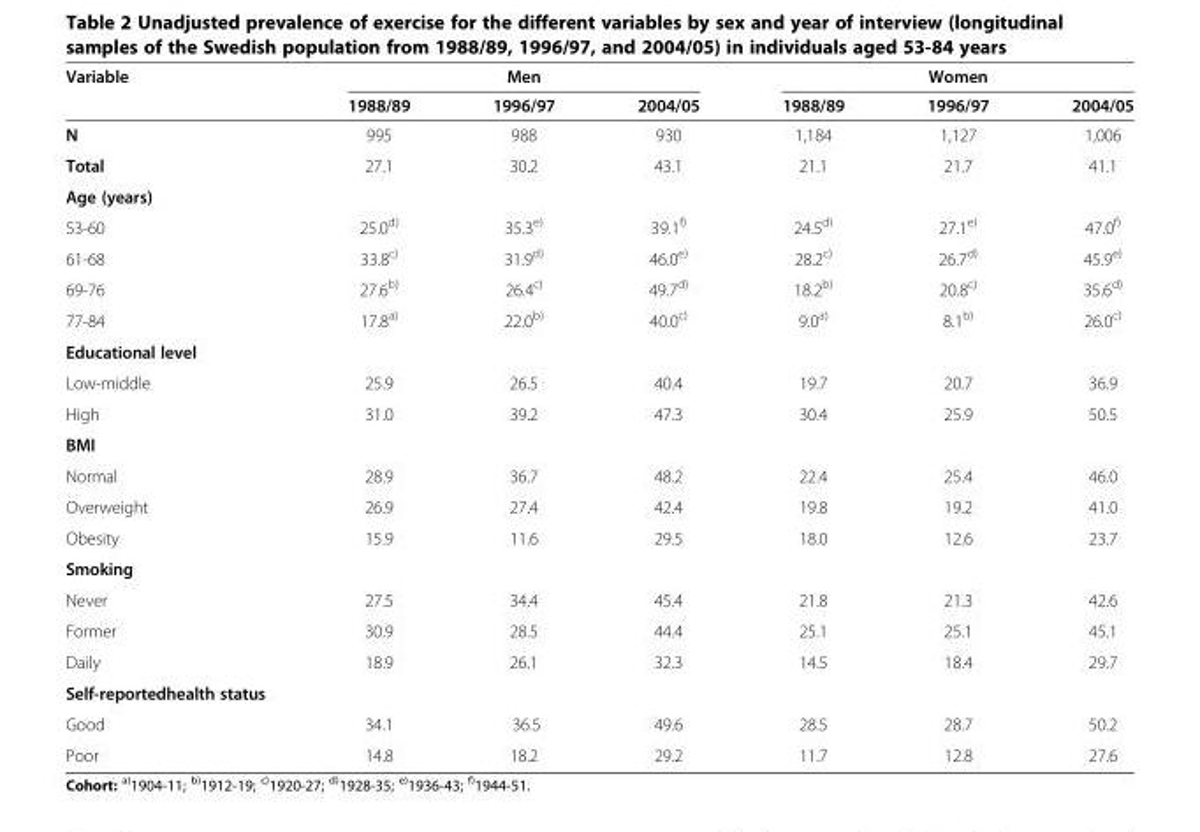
<table><thead><tr><td rowspan="2">Variable</td><td colspan="3">Men</td><td colspan="3">Women</td></tr><tr><td>1988/89</td><td>1996/97</td><td>2004/05</td><td>1988/89</td><td>1996/97</td><td>2004/05</td></tr></thead><tbody><tr><td>N</td><td>995</td><td>988</td><td>930</td><td>1,184</td><td>1,127</td><td>1,006</td></tr><tr><td>Total</td><td>27.1</td><td>30.2</td><td>43.1</td><td>21.1</td><td>21.7</td><td>41.1</td></tr><tr><td colspan="7">Age (years)</td></tr><tr><td>53-60</td><td>25.0<sup>d)</sup></td><td>35.3<sup>e)</sup></td><td>39.1<sup>f)</sup></td><td>24.5<sup>d)</sup></td><td>27.1<sup>e)</sup></td><td>47.0<sup>f)</sup></td></tr><tr><td>61-68</td><td>33.8<sup>c)</sup></td><td>31.9<sup>d)</sup></td><td>46.0<sup>e)</sup></td><td>28.2<sup>c)</sup></td><td>26.7<sup>d)</sup></td><td>45.9<sup>e)</sup></td></tr><tr><td>69-76</td><td>27.6<sup>b)</sup></td><td>26.4<sup>c)</sup></td><td>49.7<sup>d)</sup></td><td>18.2<sup>b)</sup></td><td>20.8<sup>c)</sup></td><td>35.6<sup>d)</sup></td></tr><tr><td>77-84</td><td>17.8<sup>a)</sup></td><td>22.0<sup>b)</sup></td><td>40.0<sup>c)</sup></td><td>9.0<sup>a)</sup></td><td>8.1<sup>b)</sup></td><td>26.0<sup>c)</sup></td></tr><tr><td colspan="7">Educational level</td></tr><tr><td>Low-middle</td><td>25.9</td><td>26.5</td><td>40.4</td><td>19.7</td><td>20.7</td><td>36.9</td></tr><tr><td>High</td><td>31.0</td><td>39.2</td><td>47.3</td><td>30.4</td><td>25.9</td><td>50.5</td></tr><tr><td colspan="7">BMI</td></tr><tr><td>Normal</td><td>28.9</td><td>36.7</td><td>48.2</td><td>22.4</td><td>25.4</td><td>46.0</td></tr><tr><td>Overweight</td><td>26.9</td><td>27.4</td><td>42.4</td><td>19.8</td><td>19.2</td><td>41.0</td></tr><tr><td>Obesity</td><td>15.9</td><td>11.6</td><td>29.5</td><td>18.0</td><td>12.6</td><td>23.7</td></tr><tr><td colspan="7">Smoking</td></tr><tr><td>Never</td><td>27.5</td><td>34.4</td><td>45.4</td><td>21.8</td><td>21.3</td><td>42.6</td></tr><tr><td>Former</td><td>30.9</td><td>28.5</td><td>44.4</td><td>25.1</td><td>25.1</td><td>45.1</td></tr><tr><td>Daily</td><td>18.9</td><td>26.1</td><td>32.3</td><td>14.5</td><td>18.4</td><td>29.7</td></tr><tr><td colspan="7">Self-reportedhealth status</td></tr><tr><td>Good</td><td>34.1</td><td>36.5</td><td>49.6</td><td>28.5</td><td>28.7</td><td>50.2</td></tr><tr><td>Poor</td><td>14.8</td><td>18.2</td><td>29.2</td><td>11.7</td><td>12.8</td><td>27.6</td></tr></tbody></table>